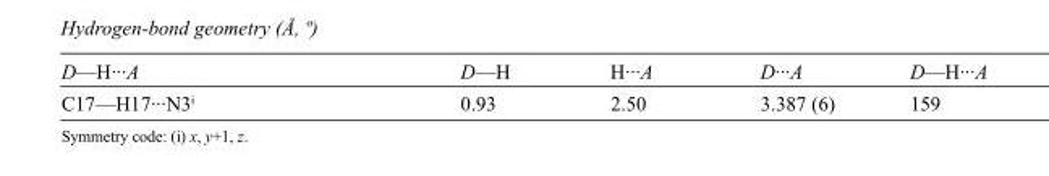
<table><tbody><tr><td>D—H···A</td><td>D—H</td><td>H···A</td><td>D···A</td><td>D—H···A</td></tr><tr><td>C17—H17···N3<sup>i</sup></td><td>0.93</td><td>2.50</td><td>3.387 (6)</td><td>159</td></tr></tbody></table>